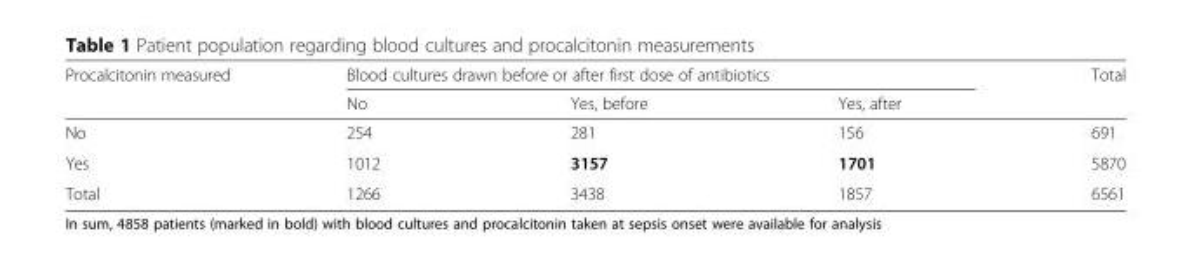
<table><thead><tr><td rowspan="2">Procalcitonin measured</td><td colspan="3">Blood cultures drawn before or after first dose of antibiotics</td><td rowspan="2">Total</td></tr><tr><td>No</td><td>Yes, before</td><td>Yes, after</td></tr></thead><tbody><tr><td>No</td><td>254</td><td>281</td><td>156</td><td>691</td></tr><tr><td>Yes</td><td>1012</td><td>3157</td><td>1701</td><td>5870</td></tr><tr><td>Total</td><td>1266</td><td>3438</td><td>1857</td><td>6561</td></tr></tbody></table>